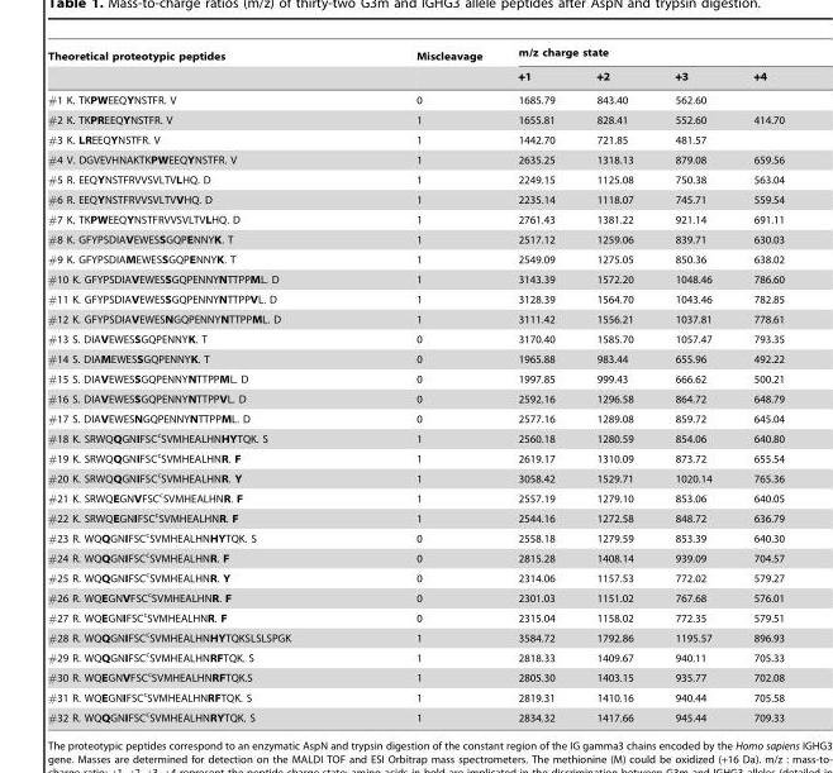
<table><thead><tr><td rowspan="2">Theoretical proteotypic peptides</td><td rowspan="2">Miscleavage</td><td colspan="4">m/z charge state</td></tr><tr><td>+1</td><td>+2</td><td>+3</td><td>+4</td></tr></thead><tbody><tr><td>#1 K. TKPWEEQYNSTFR. V</td><td>0</td><td>1685.79</td><td>843.40</td><td>562.60</td><td></td></tr><tr><td>#2 K. TKPREEQYNSTFR. V</td><td>1</td><td>1655.81</td><td>828.41</td><td>552.60</td><td>414.70</td></tr><tr><td>#3 K. LREEQYNSTFR. V</td><td>1</td><td>1442.70</td><td>721.85</td><td>481.57</td><td></td></tr><tr><td>#4 V. DGVEVHNAKTKPWEEQYNSTFR. V</td><td>1</td><td>2635.25</td><td>1318.13</td><td>879.08</td><td>659.56</td></tr><tr><td>#5 R. EEQYNSTFRVVSVLTVLHQ. D</td><td>1</td><td>2249.15</td><td>1125.08</td><td>750.38</td><td>563.04</td></tr><tr><td>#6 R. EEQYNSTFRVVSVLTVVHQ. D</td><td>1</td><td>2235.14</td><td>1118.07</td><td>745.71</td><td>559.54</td></tr><tr><td>#7 K. TKPWEEQYNSTFRVVSVLTVLHQ. D</td><td>1</td><td>2761.43</td><td>1381.22</td><td>921.14</td><td>691.11</td></tr><tr><td>#8 K. GFYPSDIAVEWESSGQPENNYK. T</td><td>1</td><td>2517.12</td><td>1259.06</td><td>839.71</td><td>630.03</td></tr><tr><td>#9 K. GFYPSDIAMEWESSGQPENNYK. T</td><td>1</td><td>2549.09</td><td>1275.05</td><td>850.36</td><td>638.02</td></tr><tr><td>#10 K. GFYPSDIAVEWESSGQPENNYNTTPPML. D</td><td>1</td><td>3143.39</td><td>1572.20</td><td>1048.46</td><td>786.60</td></tr><tr><td>#11 K. GFYPSDIAVEWESSGQPENNYNTTPPVL. D</td><td>1</td><td>3128.39</td><td>1564.70</td><td>1043.46</td><td>782.85</td></tr><tr><td>#12 K. GFYPSDIAVEWESNGQPENNYNTTPPML. D</td><td>1</td><td>3111.42</td><td>1556.21</td><td>1037.81</td><td>778.61</td></tr><tr><td>#13 S. DIAVEWESSGQPENNYK. T</td><td>0</td><td>3170.40</td><td>1585.70</td><td>1057.47</td><td>793.35</td></tr><tr><td>#14 S. DIAMEWESSGQPENNYK. T</td><td>0</td><td>1965.88</td><td>983.44</td><td>655.96</td><td>492.22</td></tr><tr><td>#15 S. DIAVEWESSGQPENNYNTTPPML. D</td><td>0</td><td>1997.85</td><td>999.43</td><td>666.62</td><td>500.21</td></tr><tr><td>#16 S. DIAVEWESSGQPENNYNTTPPVL. D</td><td>0</td><td>2592.16</td><td>1296.58</td><td>864.72</td><td>648.79</td></tr><tr><td>#17 S. DIAVEWESNGQPENNYNTTPPML. D</td><td>0</td><td>2577.16</td><td>1289.08</td><td>859.72</td><td>645.04</td></tr><tr><td>#18 K. SRWQQGNIFSC<sup>c</sup>SVMHEALHNHYTQK. S</td><td>1</td><td>2560.18</td><td>1280.59</td><td>854.06</td><td>640.80</td></tr><tr><td>#19 K. SRWQQGNIFSC<sup>c</sup>SVMHEALHNR. F</td><td>1</td><td>2619.17</td><td>1310.09</td><td>873.72</td><td>655.54</td></tr><tr><td>#20 K. SRWQQGNIFSC<sup>c</sup>SVMHEALHNR. Y</td><td>1</td><td>3058.42</td><td>1529.71</td><td>1020.14</td><td>765.36</td></tr><tr><td>#21 K. SRWQEGNVFSC<sup>c</sup>SVMHEALHNR. F</td><td>1</td><td>2557.19</td><td>1279.10</td><td>853.06</td><td>640.05</td></tr><tr><td>#22 K. SRWQEGNIFSC<sup>c</sup>SVMHEALHNR. F</td><td>1</td><td>2544.16</td><td>1272.58</td><td>848.72</td><td>636.79</td></tr><tr><td>#23 R. WQQGNIFSC<sup>c</sup>SVMHEALHNHYTQK. S</td><td>0</td><td>2558.18</td><td>1279.59</td><td>853.39</td><td>640.30</td></tr><tr><td>#24 R. WQQGNIFSC<sup>c</sup>SVMHEALHNR. F</td><td>0</td><td>2815.28</td><td>1408.14</td><td>939.09</td><td>704.57</td></tr><tr><td>#25 R. WQQGNIFSC<sup>c</sup>SVMHEALHNR. Y</td><td>0</td><td>2314.06</td><td>1157.53</td><td>772.02</td><td>579.27</td></tr><tr><td>#26 R. WQEGNVFSC<sup>c</sup>SVMHEALHNR. F</td><td>0</td><td>2301.03</td><td>1151.02</td><td>767.68</td><td>576.01</td></tr><tr><td>#27 R. WQEGNIFSC<sup>c</sup>SVMHEALHNR. F</td><td>0</td><td>2315.04</td><td>1158.02</td><td>772.35</td><td>579.51</td></tr><tr><td>#28 R. WQQGNIFSC<sup>c</sup>SVMHEALHNHYTQKSLSLSPGK</td><td>1</td><td>3584.72</td><td>1792.86</td><td>1195.57</td><td>896.93</td></tr><tr><td>#29 R. WQQGNIFSC<sup>c</sup>SVMHEALHNRFTQK. S</td><td>1</td><td>2818.33</td><td>1409.67</td><td>940.11</td><td>705.33</td></tr><tr><td>#30 R. WQEGNVFSC<sup>c</sup>SVMHEALHNRFTQK.S</td><td>1</td><td>2805.30</td><td>1403.15</td><td>935.77</td><td>702.08</td></tr><tr><td>#31 R. WQEGNIFSC<sup>c</sup>SVMHEALHNRFTQK. S</td><td>1</td><td>2819.31</td><td>1410.16</td><td>940.44</td><td>705.58</td></tr><tr><td>#32 R. WQQGNIFSC<sup>c</sup>SVMHEALHNRYTQK. S</td><td>1</td><td>2834.32</td><td>1417.66</td><td>945.44</td><td>709.33</td></tr></tbody></table>